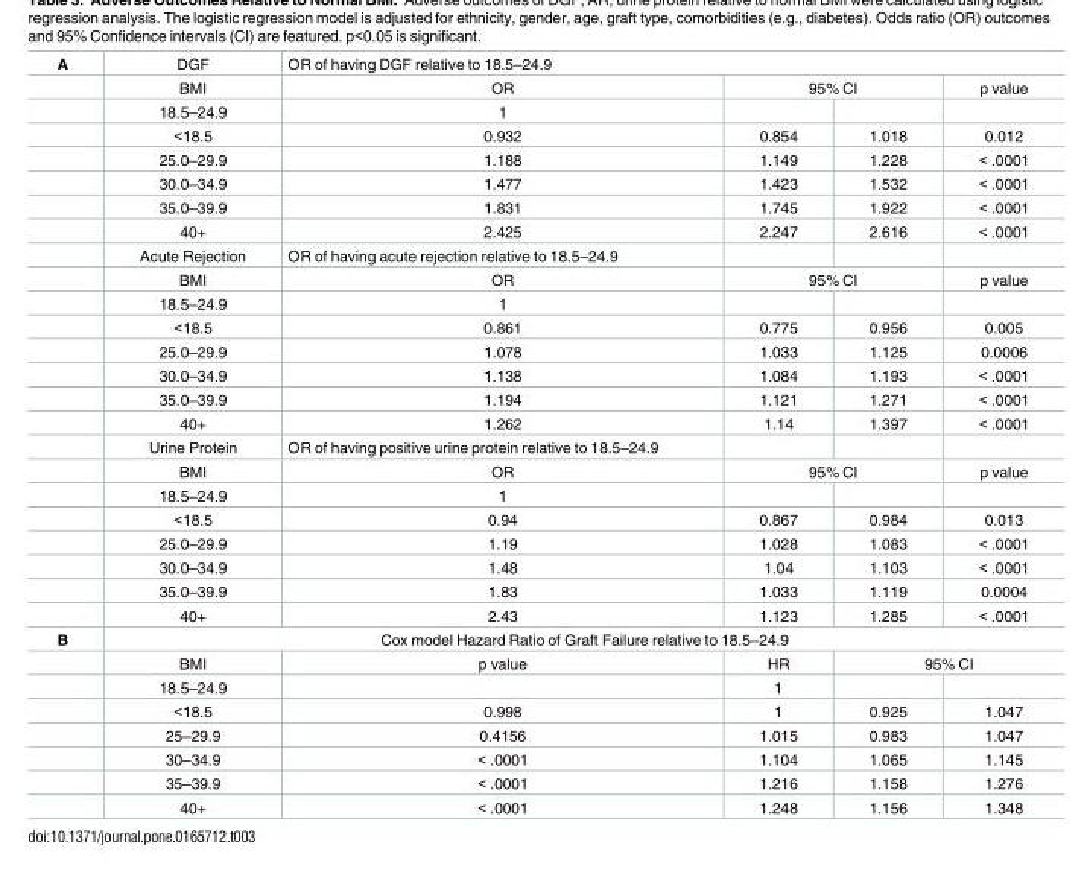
<table><tbody><tr><td rowspan="24">A</td><td>DGF</td><td colspan="4">OR of having DGF relative to 18.5–24.9</td></tr><tr><td>BMI</td><td>OR</td><td colspan="2">95% CI</td><td>p value</td></tr><tr><td>18.5–24.9</td><td>1</td><td></td><td></td><td></td></tr><tr><td>&lt;18.5</td><td>0.932</td><td>0.854</td><td>1.018</td><td>0.012</td></tr><tr><td>25.0–29.9</td><td>1.188</td><td>1.149</td><td>1.228</td><td>&lt; .0001</td></tr><tr><td>30.0–34.9</td><td>1.477</td><td>1.423</td><td>1.532</td><td>&lt; .0001</td></tr><tr><td>35.0–39.9</td><td>1.831</td><td>1.745</td><td>1.922</td><td>&lt; .0001</td></tr><tr><td>40+</td><td>2.425</td><td>2.247</td><td>2.616</td><td>&lt; .0001</td></tr><tr><td>Acute Rejection</td><td>OR of having acute rejection relative to 18.5–24.9</td><td></td><td></td><td></td></tr><tr><td>BMI</td><td>OR</td><td colspan="2">95% CI</td><td>p value</td></tr><tr><td>18.5–24.9</td><td>1</td><td></td><td></td><td></td></tr><tr><td>&lt;18.5</td><td>0.861</td><td>0.775</td><td>0.956</td><td>0.005</td></tr><tr><td>25.0–29.9</td><td>1.078</td><td>1.033</td><td>1.125</td><td>0.0006</td></tr><tr><td>30.0–34.9</td><td>1.138</td><td>1.084</td><td>1.193</td><td>&lt; .0001</td></tr><tr><td>35.0–39.9</td><td>1.194</td><td>1.121</td><td>1.271</td><td>&lt; .0001</td></tr><tr><td>40+</td><td>1.262</td><td>1.14</td><td>1.397</td><td>&lt; .0001</td></tr><tr><td>Urine Protein</td><td>OR of having positive urine protein relative to 18.5–24.9</td><td></td><td></td><td></td></tr><tr><td>BMI</td><td>OR</td><td colspan="2">95% CI</td><td>p value</td></tr><tr><td>18.5–24.9</td><td>1</td><td></td><td></td><td></td></tr><tr><td>&lt;18.5</td><td>0.94</td><td>0.867</td><td>0.984</td><td>0.013</td></tr><tr><td>25.0–29.9</td><td>1.19</td><td>1.028</td><td>1.083</td><td>&lt; .0001</td></tr><tr><td>30.0–34.9</td><td>1.48</td><td>1.04</td><td>1.103</td><td>&lt; .0001</td></tr><tr><td>35.0–39.9</td><td>1.83</td><td>1.033</td><td>1.119</td><td>0.0004</td></tr><tr><td>40+</td><td>2.43</td><td>1.123</td><td>1.285</td><td>&lt; .0001</td></tr><tr><td rowspan="8">B</td><td colspan="5">Cox model Hazard Ratio of Graft Failure relative to 18.5–24.9</td></tr><tr><td>BMI</td><td>p value</td><td>HR</td><td colspan="2">95% CI</td></tr><tr><td>18.5–24.9</td><td></td><td>1</td><td></td><td></td></tr><tr><td>&lt;18.5</td><td>0.998</td><td>1</td><td>0.925</td><td>1.047</td></tr><tr><td>25–29.9</td><td>0.4156</td><td>1.015</td><td>0.983</td><td>1.047</td></tr><tr><td>30–34.9</td><td>&lt; .0001</td><td>1.104</td><td>1.065</td><td>1.145</td></tr><tr><td>35–39.9</td><td>&lt; .0001</td><td>1.216</td><td>1.158</td><td>1.276</td></tr><tr><td>40+</td><td>&lt; .0001</td><td>1.248</td><td>1.156</td><td>1.348</td></tr></tbody></table>